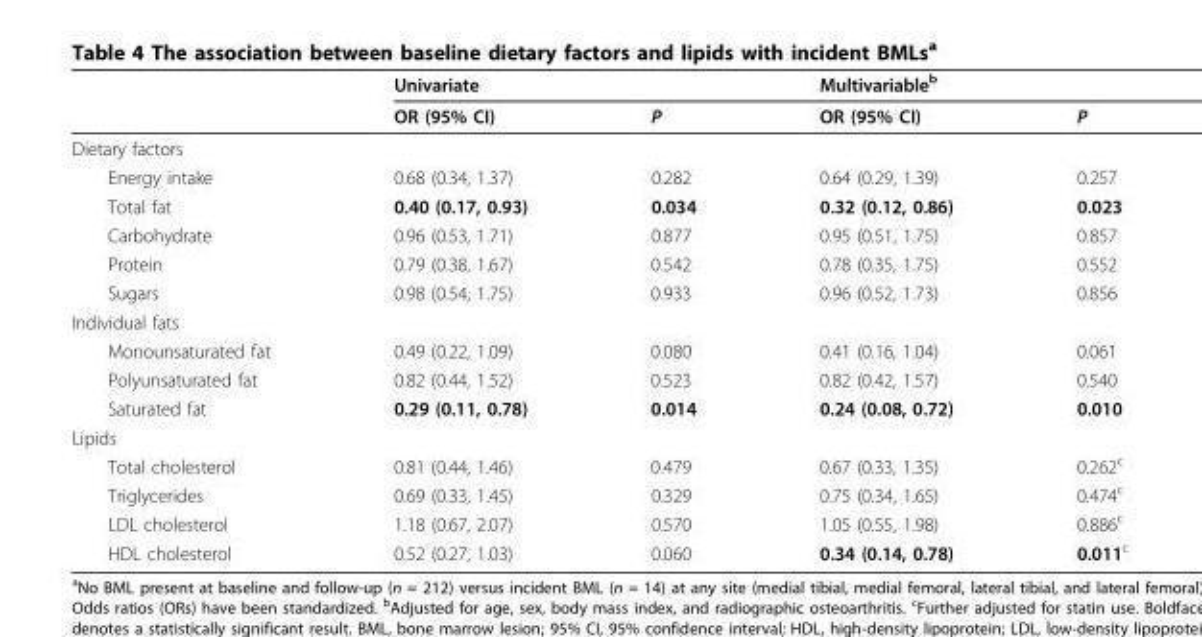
<table><thead><tr><td rowspan="2"></td><td colspan="2">Univariate</td><td colspan="2">Multivariable<sup>b</sup></td></tr><tr><td>OR (95% CI)</td><td>P</td><td>OR (95% CI)</td><td>P</td></tr></thead><tbody><tr><td colspan="5">Dietary factors</td></tr><tr><td>Energy intake</td><td>0.68 (0.34, 1.37)</td><td>0.282</td><td>0.64 (0.29, 1.39)</td><td>0.257</td></tr><tr><td>Total fat</td><td>0.40 (0.17, 0.93)</td><td>0.034</td><td>0.32 (0.12, 0.86)</td><td>0.023</td></tr><tr><td>Carbohydrate</td><td>0.96 (0.53, 1.71)</td><td>0.877</td><td>0.95 (0.51, 1.75)</td><td>0.857</td></tr><tr><td>Protein</td><td>0.79 (0.38, 1.67)</td><td>0.542</td><td>0.78 (0.35, 1.75)</td><td>0.552</td></tr><tr><td>Sugars</td><td>0.98 (0.54, 1.75)</td><td>0.933</td><td>0.96 (0.52, 1.73)</td><td>0.856</td></tr><tr><td colspan="5">Individual fats</td></tr><tr><td>Monounsaturated fat</td><td>0.49 (0.22, 1.09)</td><td>0.080</td><td>0.41 (0.16, 1.04)</td><td>0.061</td></tr><tr><td>Polyunsaturated fat</td><td>0.82 (0.44, 1.52)</td><td>0.523</td><td>0.82 (0.42, 1.57)</td><td>0.540</td></tr><tr><td>Saturated fat</td><td>0.29 (0.11, 0.78)</td><td>0.014</td><td>0.24 (0.08, 0.72)</td><td>0.010</td></tr><tr><td colspan="5">Lipids</td></tr><tr><td>Total cholesterol</td><td>0.81 (0.44, 1.46)</td><td>0.479</td><td>0.67 (0.33, 1.35)</td><td>0.262<sup>c</sup></td></tr><tr><td>Triglycerides</td><td>0.69 (0.33, 1.45)</td><td>0.329</td><td>0.75 (0.34, 1.65)</td><td>0.474<sup>c</sup></td></tr><tr><td>LDL cholesterol</td><td>1.18 (0.67, 2.07)</td><td>0.570</td><td>1.05 (0.55, 1.98)</td><td>0.886<sup>c</sup></td></tr><tr><td>HDL cholesterol</td><td>0.52 (0.27, 1.03)</td><td>0.060</td><td>0.34 (0.14, 0.78)</td><td>0.011<sup>c</sup></td></tr></tbody></table>